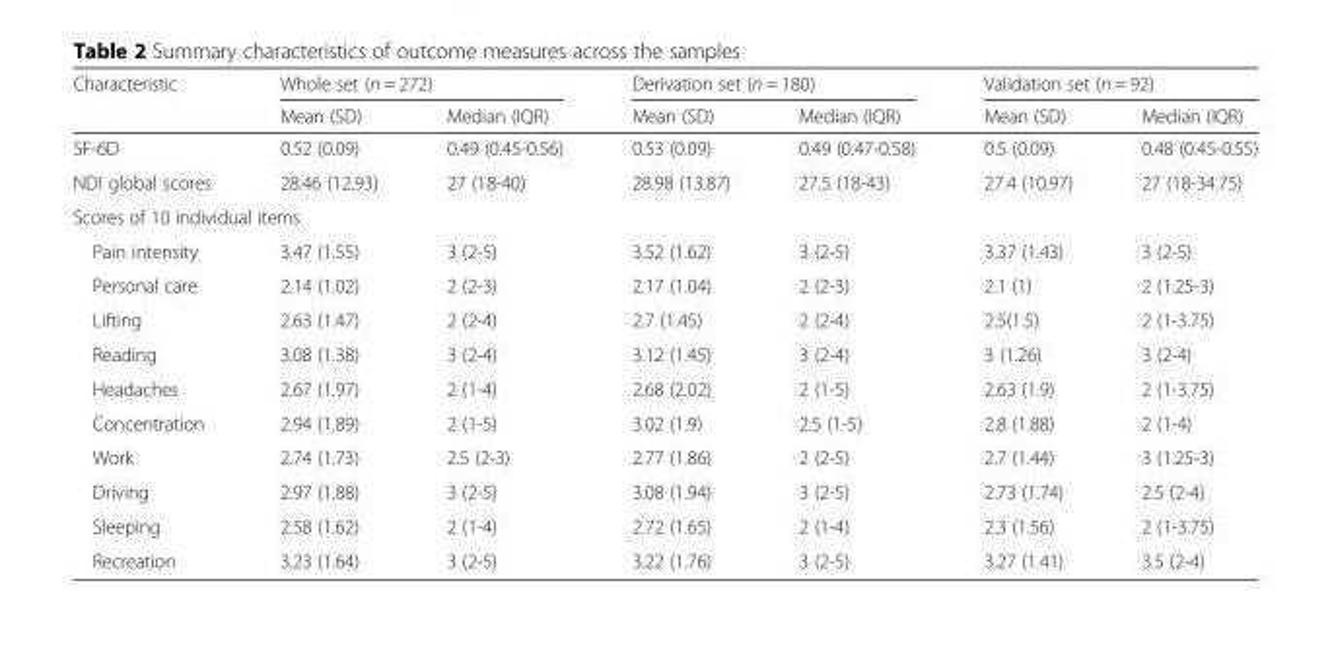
<table><thead><tr><td rowspan="2">Characteristic</td><td colspan="2">Whole set (n = 272)</td><td colspan="2">Derivation set (n = 180)</td><td colspan="2">Validation set (n = 92)</td></tr><tr><td>Mean (SD)</td><td>Median (IQR)</td><td>Mean (SD)</td><td>Median (IQR)</td><td>Mean (SD)</td><td>Median (IQR)</td></tr></thead><tbody><tr><td>SF-6D</td><td>0.52 (0.09)</td><td>0.49 (0.45-0.56)</td><td>0.53 (0.09)</td><td>0.49 (0.47-0.58)</td><td>0.5 (0.09)</td><td>0.48 (0.45-0.55)</td></tr><tr><td>NDI global scores</td><td>28.46 (12.93)</td><td>27 (18-40)</td><td>28.98 (13.87)</td><td>27.5 (18-43)</td><td>27.4 (10.97)</td><td>27 (18-34.75)</td></tr><tr><td colspan="7">Scores of 10 individual items</td></tr><tr><td>Pain intensity</td><td>3.47 (1.55)</td><td>3 (2-5)</td><td>3.52 (1.62)</td><td>3 (2-5)</td><td>3.37 (1.43)</td><td>3 (2-5)</td></tr><tr><td>Personal care</td><td>2.14 (1.02)</td><td>2 (2-3)</td><td>2.17 (1.04)</td><td>2 (2-3)</td><td>2.1 (1)</td><td>2 (1.25-3)</td></tr><tr><td>Lifting</td><td>2.63 (1.47)</td><td>2 (2-4)</td><td>2.7 (1.45)</td><td>2 (2-4)</td><td>2.5(1.5)</td><td>2 (1-3.75)</td></tr><tr><td>Reading</td><td>3.08 (1.38)</td><td>3 (2-4)</td><td>3.12 (1.45)</td><td>3 (2-4)</td><td>3 (1.26)</td><td>3 (2-4)</td></tr><tr><td>Headaches</td><td>2.67 (1.97)</td><td>2 (1-4)</td><td>2.68 (2.02)</td><td>2 (1-5)</td><td>2.63 (1.9)</td><td>2 (1-3.75)</td></tr><tr><td>Concentration</td><td>2.94 (1.89)</td><td>2 (1-5)</td><td>3.02 (1.9)</td><td>2.5 (1-5)</td><td>2.8 (1.88)</td><td>2 (1-4)</td></tr><tr><td>Work</td><td>2.74 (1.73)</td><td>2.5 (2-3)</td><td>2.77 (1.86)</td><td>2 (2-5)</td><td>2.7 (1.44)</td><td>3 (1.25-3)</td></tr><tr><td>Driving</td><td>2.97 (1.88)</td><td>3 (2-5)</td><td>3.08 (1.94)</td><td>3 (2-5)</td><td>2.73 (1.74)</td><td>2.5 (2-4)</td></tr><tr><td>Sleeping</td><td>2.58 (1.62)</td><td>2 (1-4)</td><td>2.72 (1.65)</td><td>2 (1-4)</td><td>2.3 (1.56)</td><td>2 (1-3.75)</td></tr><tr><td>Recreation</td><td>3.23 (1.64)</td><td>3 (2-5)</td><td>3.22 (1.76)</td><td>3 (2-5)</td><td>3.27 (1.41)</td><td>3.5 (2-4)</td></tr></tbody></table>